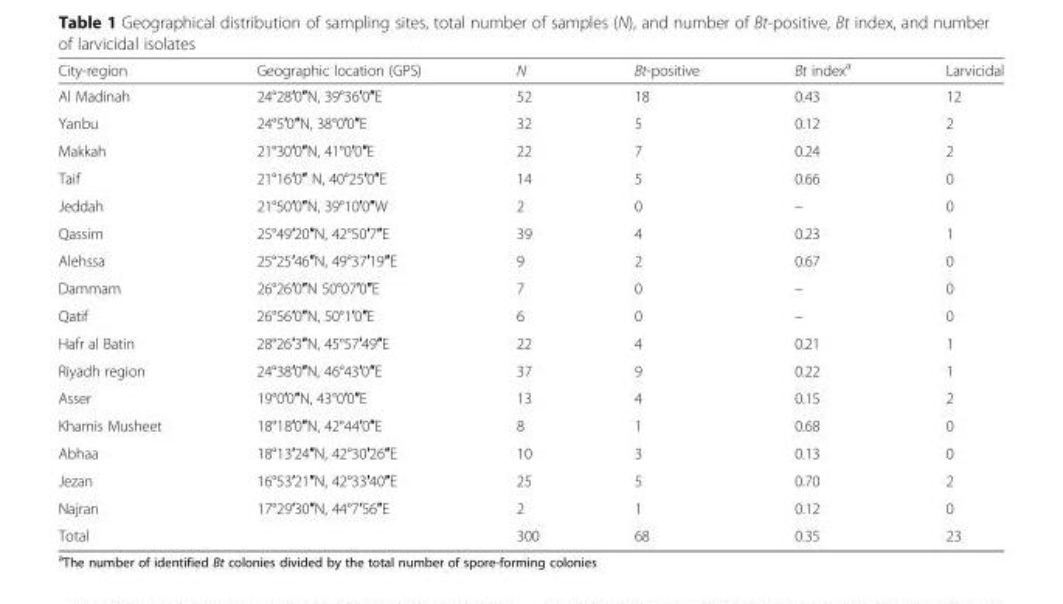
<table><thead><tr><td>City-region</td><td>Geographic location (GPS)</td><td>N</td><td>Bt-positive</td><td>Bt index<sup>a</sup></td><td>Larvicidal</td></tr></thead><tbody><tr><td>Al Madinah</td><td>24°28′0″N, 39°36′0″E</td><td>52</td><td>18</td><td>0.43</td><td>12</td></tr><tr><td>Yanbu</td><td>24°5′0″N, 38°0′0″E</td><td>32</td><td>5</td><td>0.12</td><td>2</td></tr><tr><td>Makkah</td><td>21°30′0″N, 41°0′0″E</td><td>22</td><td>7</td><td>0.24</td><td>2</td></tr><tr><td>Taif</td><td>21°16′0″ N, 40°25′0″E</td><td>14</td><td>5</td><td>0.66</td><td>0</td></tr><tr><td>Jeddah</td><td>21°50′0″N, 39°10′0″W</td><td>2</td><td>0</td><td>–</td><td>0</td></tr><tr><td>Qassim</td><td>25°49′20″N, 42°50′7″E</td><td>39</td><td>4</td><td>0.23</td><td>1</td></tr><tr><td>Alehssa</td><td>25°25′46″N, 49°37′19″E</td><td>9</td><td>2</td><td>0.67</td><td>0</td></tr><tr><td>Dammam</td><td>26°26′0″N 50°07′0″E</td><td>7</td><td>0</td><td>–</td><td>0</td></tr><tr><td>Qatif</td><td>26°56′0″N, 50°1′0″E</td><td>6</td><td>0</td><td>–</td><td>0</td></tr><tr><td>Hafr al Batin</td><td>28°26′3″N, 45°57′49″E</td><td>22</td><td>4</td><td>0.21</td><td>1</td></tr><tr><td>Riyadh region</td><td>24°38′0″N, 46°43′0″E</td><td>37</td><td>9</td><td>0.22</td><td>1</td></tr><tr><td>Asser</td><td>19°0′0″N, 43°0′0″E</td><td>13</td><td>4</td><td>0.15</td><td>2</td></tr><tr><td>Khamis Musheet</td><td>18°18′0″N, 42°44′0″E</td><td>8</td><td>1</td><td>0.68</td><td>0</td></tr><tr><td>Abhaa</td><td>18°13′24″N, 42°30′26″E</td><td>10</td><td>3</td><td>0.13</td><td>0</td></tr><tr><td>Jezan</td><td>16°53′21″N, 42°33′40″E</td><td>25</td><td>5</td><td>0.70</td><td>2</td></tr><tr><td>Najran</td><td>17°29′30″N, 44°7′56″E</td><td>2</td><td>1</td><td>0.12</td><td>0</td></tr><tr><td>Total</td><td></td><td>300</td><td>68</td><td>0.35</td><td>23</td></tr></tbody></table>